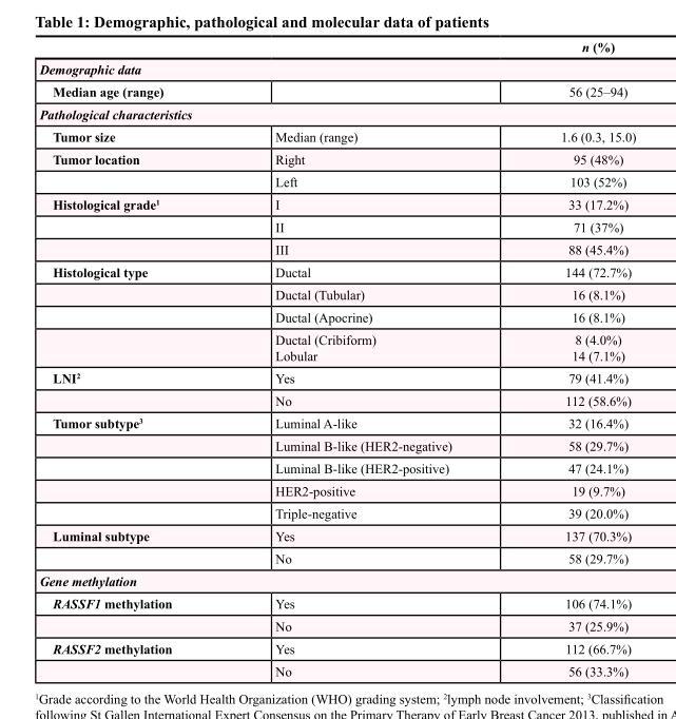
<table><thead><tr><td></td><td></td><td>n (%)</td></tr></thead><tbody><tr><td colspan="3">Demographic data</td></tr><tr><td>Median age (range)</td><td></td><td>56 (25–94)</td></tr><tr><td colspan="3">Pathological characteristics</td></tr><tr><td>Tumor size</td><td>Median (range)</td><td>1.6 (0.3, 15.0)</td></tr><tr><td rowspan="2">Tumor location</td><td>Right</td><td>95 (48%)</td></tr><tr><td>Left</td><td>103 (52%)</td></tr><tr><td rowspan="3">Histological grade<sup>1</sup></td><td>I</td><td>33 (17.2%)</td></tr><tr><td>II</td><td>71 (37%)</td></tr><tr><td>III</td><td>88 (45.4%)</td></tr><tr><td rowspan="4">Histological type</td><td>Ductal</td><td>144 (72.7%)</td></tr><tr><td>Ductal (Tubular)</td><td>16 (8.1%)</td></tr><tr><td>Ductal (Apocrine)</td><td>16 (8.1%)</td></tr><tr><td>Ductal (Cribiform) Lobular</td><td>8 (4.0%) 14 (7.1%)</td></tr><tr><td rowspan="2">LNI<sup>2</sup></td><td>Yes</td><td>79 (41.4%)</td></tr><tr><td>No</td><td>112 (58.6%)</td></tr><tr><td rowspan="5">Tumor subtype<sup>3</sup></td><td>Luminal A-like</td><td>32 (16.4%)</td></tr><tr><td>Luminal B-like (HER2-negative)</td><td>58 (29.7%)</td></tr><tr><td>Luminal B-like (HER2-positive)</td><td>47 (24.1%)</td></tr><tr><td>HER2-positive</td><td>19 (9.7%)</td></tr><tr><td>Triple-negative</td><td>39 (20.0%)</td></tr><tr><td rowspan="2">Luminal subtype</td><td>Yes</td><td>137 (70.3%)</td></tr><tr><td>No</td><td>58 (29.7%)</td></tr><tr><td colspan="3">Gene methylation</td></tr><tr><td rowspan="2">RASSF1 methylation</td><td>Yes</td><td>106 (74.1%)</td></tr><tr><td>No</td><td>37 (25.9%)</td></tr><tr><td rowspan="2">RASSF2 methylation</td><td>Yes</td><td>112 (66.7%)</td></tr><tr><td>No</td><td>56 (33.3%)</td></tr></tbody></table>